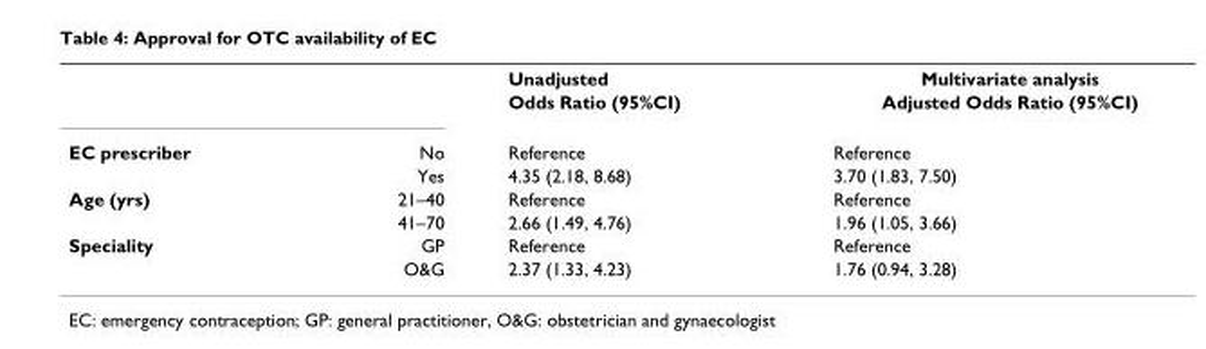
<table><thead><tr><td></td><td></td><td>Unadjusted</td><td>Multivariate analysis</td></tr></thead><tbody><tr><td></td><td></td><td>Odds Ratio (95%CI)</td><td>Adjusted Odds Ratio (95%CI)</td></tr><tr><td rowspan="2">EC prescriber</td><td>No</td><td>Reference</td><td>Reference</td></tr><tr><td>Yes</td><td>4.35 (2.18, 8.68)</td><td>3.70 (1.83, 7.50)</td></tr><tr><td rowspan="2">Age (yrs)</td><td>21–40</td><td>Reference</td><td>Reference</td></tr><tr><td>41–70</td><td>2.66 (1.49, 4.76)</td><td>1.96 (1.05, 3.66)</td></tr><tr><td rowspan="2">Speciality</td><td>GP</td><td>Reference</td><td>Reference</td></tr><tr><td>O&amp;G</td><td>2.37 (1.33, 4.23)</td><td>1.76 (0.94, 3.28)</td></tr></tbody></table>